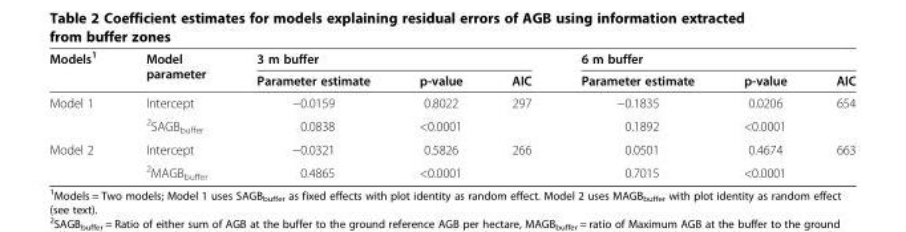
<table><thead><tr><td rowspan="2">Models<sup>1</sup></td><td rowspan="2">Model parameter</td><td colspan="3">3 m buffer</td><td colspan="3">6 m buffer</td></tr><tr><td>Parameter estimate</td><td>p-value</td><td>AIC</td><td>Parameter estimate</td><td>p-value</td><td>AIC</td></tr></thead><tbody><tr><td rowspan="2">Model 1</td><td>Intercept</td><td>−0.0159</td><td>0.8022</td><td rowspan="2">297</td><td>−0.1835</td><td>0.0206</td><td rowspan="2">654</td></tr><tr><td><sup>2</sup>SAGB<sub>buffer</sub></td><td>0.0838</td><td>&lt;0.0001</td><td>0.1892</td><td>&lt;0.0001</td></tr><tr><td rowspan="2">Model 2</td><td>Intercept</td><td>−0.0321</td><td>0.5826</td><td rowspan="2">266</td><td>0.0501</td><td>0.4674</td><td rowspan="2">663</td></tr><tr><td><sup>2</sup>MAGB<sub>buffer</sub></td><td>0.4865</td><td>&lt;0.0001</td><td>0.7015</td><td>&lt;0.0001</td></tr></tbody></table>